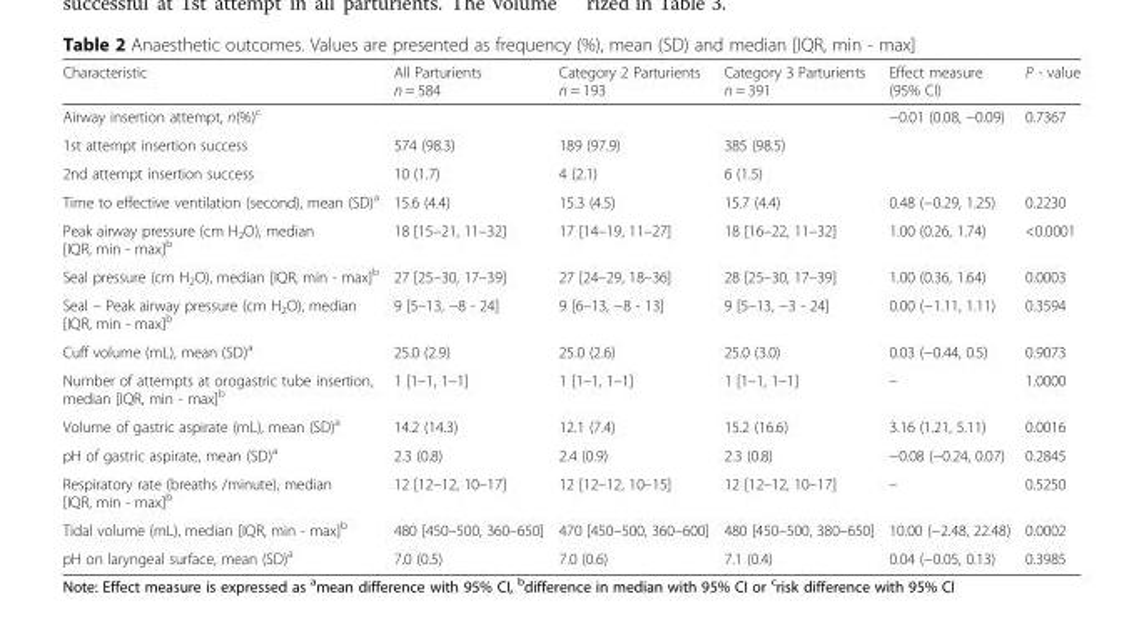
<table><thead><tr><td>Characteristic</td><td>All Parturients n = 584</td><td>Category 2 Parturients n = 193</td><td>Category 3 Parturients n = 391</td><td>Effect measure (95% CI)</td><td>P - value</td></tr></thead><tbody><tr><td>Airway insertion attempt, n(%)<sup>c</sup></td><td></td><td></td><td></td><td>−0.01 (0.08, −0.09)</td><td>0.7367</td></tr><tr><td>1st attempt insertion success</td><td>574 (98.3)</td><td>189 (97.9)</td><td>385 (98.5)</td><td></td><td></td></tr><tr><td>2nd attempt insertion success</td><td>10 (1.7)</td><td>4 (2.1)</td><td>6 (1.5)</td><td></td><td></td></tr><tr><td>Time to effective ventilation (second), mean (SD)<sup>a</sup></td><td>15.6 (4.4)</td><td>15.3 (4.5)</td><td>15.7 (4.4)</td><td>0.48 (−0.29, 1.25)</td><td>0.2230</td></tr><tr><td>Peak airway pressure (cm H<sub>2</sub>O), median [IQR, min - max]<sup>b</sup></td><td>18 [15–21, 11–32]</td><td>17 [14–19, 11–27]</td><td>18 [16–22, 11–32]</td><td>1.00 (0.26, 1.74)</td><td>&lt;0.0001</td></tr><tr><td>Seal pressure (cm H<sub>2</sub>O), median [IQR, min - max]<sup>b</sup></td><td>27 [25–30, 17–39]</td><td>27 [24–29, 18–36]</td><td>28 [25–30, 17–39]</td><td>1.00 (0.36, 1.64)</td><td>0.0003</td></tr><tr><td>Seal – Peak airway pressure (cm H<sub>2</sub>O), median [IQR, min - max]<sup>b</sup></td><td>9 [5–13, −8 - 24]</td><td>9 [6–13, −8 - 13]</td><td>9 [5–13, −3 - 24]</td><td>0.00 (−1.11, 1.11)</td><td>0.3594</td></tr><tr><td>Cuff volume (mL), mean (SD)<sup>a</sup></td><td>25.0 (2.9)</td><td>25.0 (2.6)</td><td>25.0 (3.0)</td><td>0.03 (−0.44, 0.5)</td><td>0.9073</td></tr><tr><td>Number of attempts at orogastric tube insertion, median [IQR, min - max]<sup>b</sup></td><td>1 [1–1, 1–1]</td><td>1 [1–1, 1–1]</td><td>1 [1–1, 1–1]</td><td>–</td><td>1.0000</td></tr><tr><td>Volume of gastric aspirate (mL), mean (SD)<sup>a</sup></td><td>14.2 (14.3)</td><td>12.1 (7.4)</td><td>15.2 (16.6)</td><td>3.16 (1.21, 5.11)</td><td>0.0016</td></tr><tr><td>pH of gastric aspirate, mean (SD)<sup>a</sup></td><td>2.3 (0.8)</td><td>2.4 (0.9)</td><td>2.3 (0.8)</td><td>−0.08 (−0.24, 0.07)</td><td>0.2845</td></tr><tr><td>Respiratory rate (breaths /minute), median [IQR, min - max]<sup>b</sup></td><td>12 [12–12, 10–17]</td><td>12 [12–12, 10–15]</td><td>12 [12–12, 10–17]</td><td>–</td><td>0.5250</td></tr><tr><td>Tidal volume (mL), median [IQR, min - max]<sup>b</sup></td><td>480 [450–500, 360–650]</td><td>470 [450–500, 360–600]</td><td>480 [450–500, 380–650]</td><td>10.00 (−2.48, 22.48)</td><td>0.0002</td></tr><tr><td>pH on laryngeal surface, mean (SD)<sup>a</sup></td><td>7.0 (0.5)</td><td>7.0 (0.6)</td><td>7.1 (0.4)</td><td>0.04 (−0.05, 0.13)</td><td>0.3985</td></tr></tbody></table>